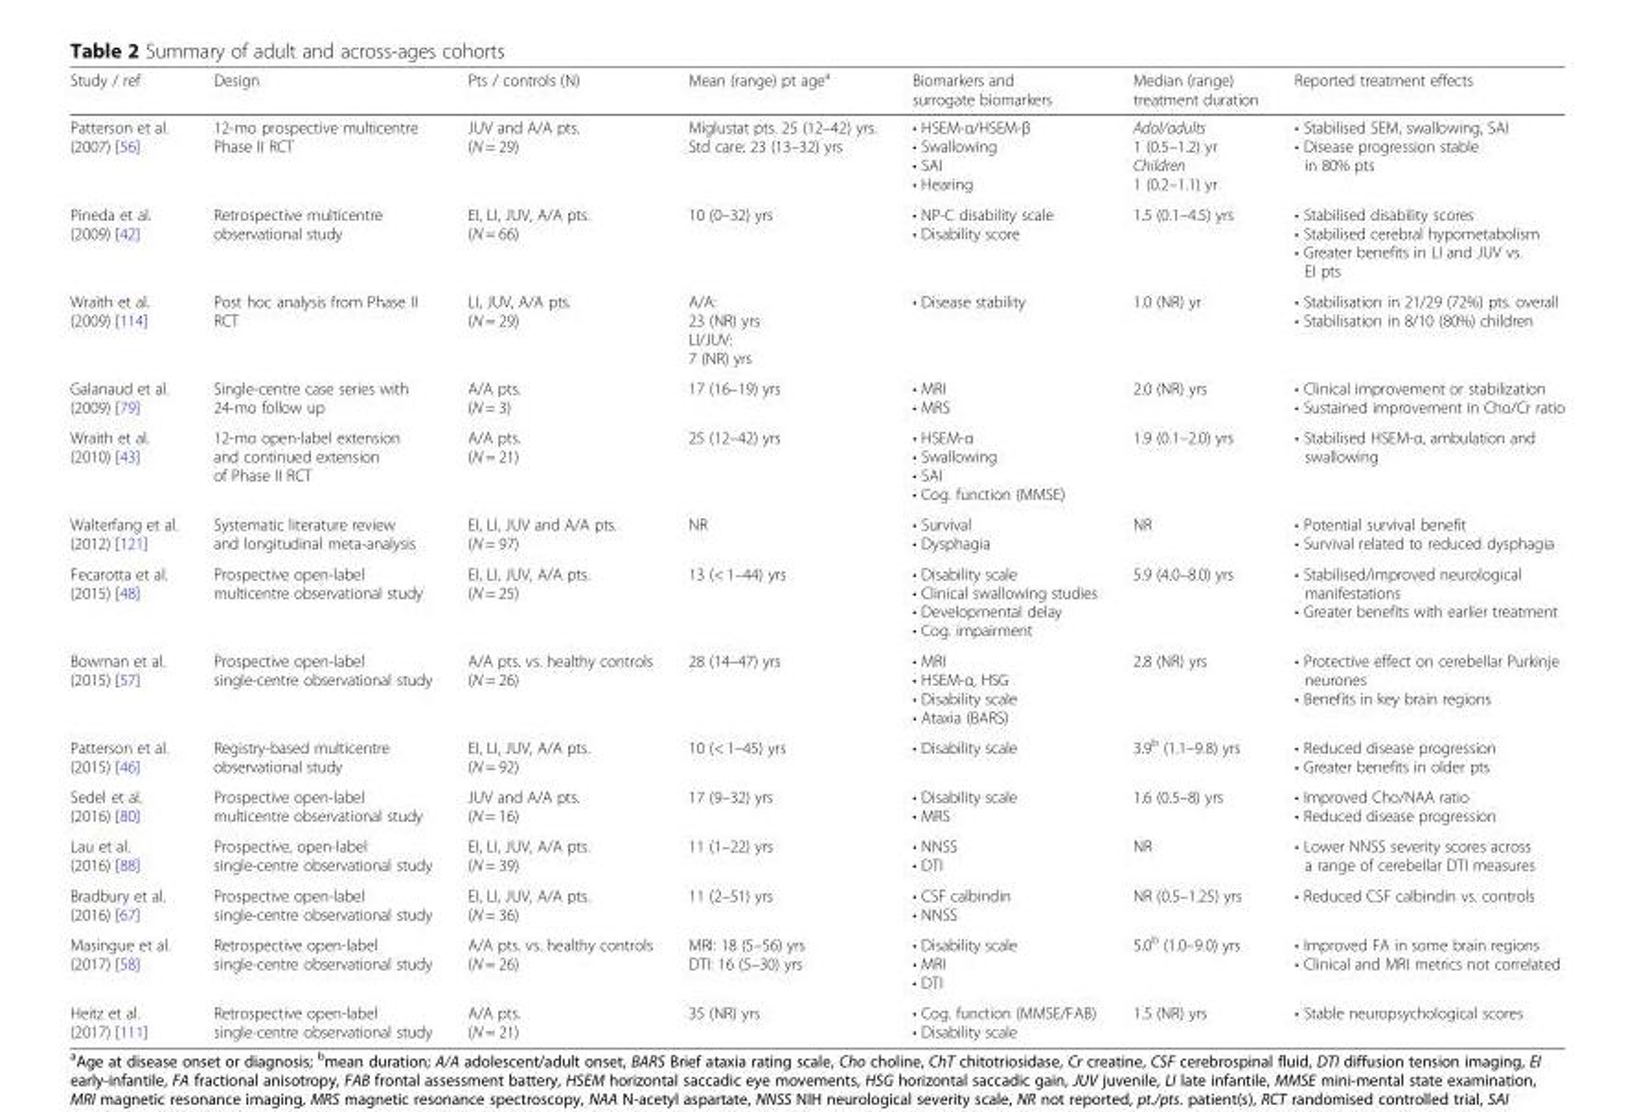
<table><thead><tr><td>Study / ref</td><td>Design</td><td>Pts / controls (N)</td><td>Mean (range) pt age<sup>a</sup></td><td>Biomarkers and surrogate biomarkers</td><td>Median (range) treatment duration</td><td>Reported treatment effects</td></tr></thead><tbody><tr><td>Patterson et al. (2007) [56]</td><td>12-mo prospective multicentre Phase II RCT</td><td>JUV and A/A pts. (N = 29)</td><td>Miglustat pts. 25 (12–42) yrs. Std care: 23 (13–32) yrs</td><td>• HSEM-α/HSEM-β • Swallowing • SAI • Hearing</td><td>Adol/adults 1 (0.5–1.2) yr Children 1 (0.2–1.1) yr</td><td>• Stabilised SEM, swallowing, SAI • Disease progression stable in 80% pts</td></tr><tr><td>Pineda et al. (2009) [42]</td><td>Retrospective multicentre observational study</td><td>EI, LI, JUV, A/A pts. (N = 66)</td><td>10 (0–32) yrs</td><td>• NP-C disability scale • Disability score</td><td>1.5 (0.1–4.5) yrs</td><td>• Stabilised disability scores • Stabilised cerebral hypometabolism • Greater benefits in LI and JUV vs. EI pts</td></tr><tr><td>Wraith et al. (2009) [114]</td><td>Post hoc analysis from Phase II RCT</td><td>LI, JUV, A/A pts. (N = 29)</td><td>A/A: 23 (NR) yrs LI/JUV: 7 (NR) yrs</td><td>• Disease stability</td><td>1.0 (NR) yr</td><td>• Stabilisation in 21/29 (72%) pts. overall • Stabilisation in 8/10 (80%) children</td></tr><tr><td>Galanaud et al. (2009) [79]</td><td>Single-centre case series with 24-mo follow up</td><td>A/A pts. (N = 3)</td><td>17 (16–19) yrs</td><td>• MRI • MRS</td><td>2.0 (NR) yrs</td><td>• Clinical improvement or stabilization • Sustained improvement in Cho/Cr ratio</td></tr><tr><td>Wraith et al. (2010) [43]</td><td>12-mo open-label extension and continued extension of Phase II RCT</td><td>A/A pts. (N = 21)</td><td>25 (12–42) yrs</td><td>• HSEM-α • Swallowing • SAI • Cog. function (MMSE)</td><td>1.9 (0.1–2.0) yrs</td><td>• Stabilised HSEM-α, ambulation and swallowing</td></tr><tr><td>Walterfang et al. (2012) [121]</td><td>Systematic literature review and longitudinal meta-analysis</td><td>EI, LI, JUV and A/A pts. (N = 97)</td><td>NR</td><td>• Survival • Dysphagia</td><td>NR</td><td>• Potential survival benefit • Survival related to reduced dysphagia</td></tr><tr><td>Fecarotta et al. (2015) [48]</td><td>Prospective open-label multicentre observational study</td><td>EI, LI, JUV, A/A pts. (N = 25)</td><td>13 (&lt; 1–44) yrs</td><td>• Disability scale • Clinical swallowing studies • Developmental delay • Cog. impairment</td><td>5.9 (4.0–8.0) yrs</td><td>• Stabilised/improved neurological manifestations • Greater benefits with earlier treatment</td></tr><tr><td>Bowman et al. (2015) [57]</td><td>Prospective open-label single-centre observational study</td><td>A/A pts. vs. healthy controls (N = 26)</td><td>28 (14–47) yrs</td><td>• MRI • HSEM-α, HSG • Disability scale • Ataxia (BARS)</td><td>2.8 (NR) yrs</td><td>• Protective effect on cerebellar Purkinje neurones • Benefits in key brain regions</td></tr><tr><td>Patterson et al. (2015) [46]</td><td>Registry-based multicentre observational study</td><td>EI, LI, JUV, A/A pts. (N = 92)</td><td>10 (&lt; 1–45) yrs</td><td>• Disability scale</td><td>3.9<sup>b</sup> (1.1–9.8) yrs</td><td>• Reduced disease progression • Greater benefits in older pts</td></tr><tr><td>Sedel et al. (2016) [80]</td><td>Prospective open-label multicentre observational study</td><td>JUV and A/A pts. (N = 16)</td><td>17 (9–32) yrs</td><td>• Disability scale • MRS</td><td>1.6 (0.5–8) yrs</td><td>• Improved Cho/NAA ratio • Reduced disease progression</td></tr><tr><td>Lau et al. (2016) [88]</td><td>Prospective, open-label single-centre observational study</td><td>EI, LI, JUV, A/A pts. (N = 39)</td><td>11 (1–22) yrs</td><td>• NNSS • DTI</td><td>NR</td><td>• Lower NNSS severity scores across a range of cerebellar DTI measures</td></tr><tr><td>Bradbury et al. (2016) [67]</td><td>Prospective open-label single-centre observational study</td><td>EI, LI, JUV, A/A pts. (N = 36)</td><td>11 (2–51) yrs</td><td>• CSF calbindin • NNSS</td><td>NR (0.5–1.25) yrs</td><td>• Reduced CSF calbindin vs. controls</td></tr><tr><td>Masingue et al. (2017) [58]</td><td>Retrospective open-label single-centre observational study</td><td>A/A pts. vs. healthy controls (N = 26)</td><td>MRI: 18 (5–56) yrs DTI: 16 (5–30) yrs</td><td>• Disability scale • MRI • DTI</td><td>5.0<sup>b</sup> (1.0–9.0) yrs</td><td>• Improved FA in some brain regions • Clinical and MRI metrics not correlated</td></tr><tr><td>Heitz et al. (2017) [111]</td><td>Retrospective open-label single-centre observational study</td><td>A/A pts. (N = 21)</td><td>35 (NR) yrs</td><td>• Cog. function (MMSE/FAB) • Disability scale</td><td>1.5 (NR) yrs</td><td>• Stable neuropsychological scores</td></tr></tbody></table>